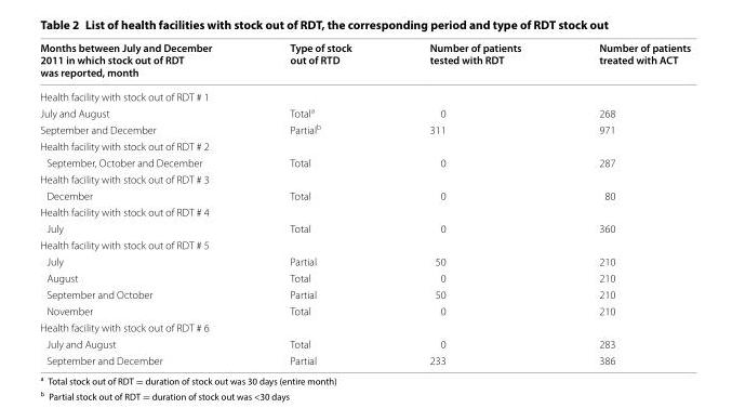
<table><thead><tr><td>Months between July and December 2011 in which stock out of RDT was reported, month</td><td>Type of stock out of RTD</td><td>Number of patients tested with RDT</td><td>Number of patients treated with ACT</td></tr></thead><tbody><tr><td colspan="4">Health facility with stock out of RDT # 1</td></tr><tr><td>July and August</td><td>Total<sup>a</sup></td><td>0</td><td>268</td></tr><tr><td>September and December</td><td>Partial<sup>b</sup></td><td>311</td><td>971</td></tr><tr><td colspan="4">Health facility with stock out of RDT # 2</td></tr><tr><td>September, October and December</td><td>Total</td><td>0</td><td>287</td></tr><tr><td colspan="4">Health facility with stock out of RDT # 3</td></tr><tr><td>December</td><td>Total</td><td>0</td><td>80</td></tr><tr><td colspan="4">Health facility with stock out of RDT # 4</td></tr><tr><td>July</td><td>Total</td><td>0</td><td>360</td></tr><tr><td colspan="4">Health facility with stock out of RDT # 5</td></tr><tr><td>July</td><td>Partial</td><td>50</td><td>210</td></tr><tr><td>August</td><td>Total</td><td>0</td><td>210</td></tr><tr><td>September and October</td><td>Partial</td><td>50</td><td>210</td></tr><tr><td>November</td><td>Total</td><td>0</td><td>210</td></tr><tr><td colspan="4">Health facility with stock out of RDT # 6</td></tr><tr><td>July and August</td><td>Total</td><td>0</td><td>283</td></tr><tr><td>September and December</td><td>Partial</td><td>233</td><td>386</td></tr></tbody></table>